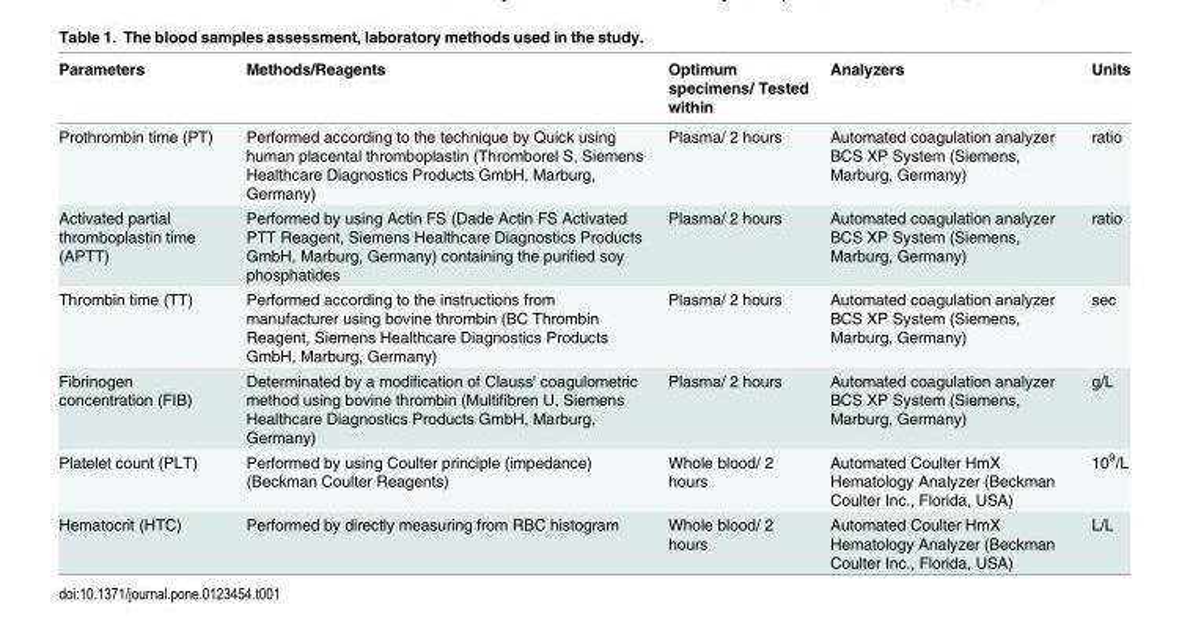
<table><thead><tr><td>Parameters</td><td>Methods/Reagents</td><td>Optimum specimens/ Tested within</td><td>Analyzers</td><td>Units</td></tr></thead><tbody><tr><td>Prothrombin time (PT)</td><td>Performed according to the technique by Quick using human placental thromboplastin (Thromborel S, Siemens Healthcare Diagnostics Products GmbH, Marburg, Germany)</td><td>Plasma/ 2 hours</td><td>Automated coagulation analyzer BCS XP System (Siemens, Marburg, Germany)</td><td>ratio</td></tr><tr><td>Activated partial thromboplastin time (APTT)</td><td>Performed by using Actin FS (Dade Actin FS Activated PTT Reagent, Siemens Healthcare Diagnostics Products GmbH, Marburg, Germany) containing the purified soy phosphatides</td><td>Plasma/ 2 hours</td><td>Automated coagulation analyzer BCS XP System (Siemens, Marburg, Germany)</td><td>ratio</td></tr><tr><td>Thrombin time (TT)</td><td>Performed according to the instructions from manufacturer using bovine thrombin (BC Thrombin Reagent, Siemens Healthcare Diagnostics Products GmbH, Marburg, Germany)</td><td>Plasma/ 2 hours</td><td>Automated coagulation analyzer BCS XP System (Siemens, Marburg, Germany)</td><td>sec</td></tr><tr><td>Fibrinogen concentration (FIB)</td><td>Determinated by a modification of Clauss&#x27; coagulometric method using bovine thrombin (Multifibren U, Siemens Healthcare Diagnostics Products GmbH, Marburg, Germany)</td><td>Plasma/ 2 hours</td><td>Automated coagulation analyzer BCS XP System (Siemens, Marburg, Germany)</td><td>g/L</td></tr><tr><td>Platelet count (PLT)</td><td>Performed by using Coulter principle (impedance) (Beckman Coulter Reagents)</td><td>Whole blood/ 2 hours</td><td>Automated Coulter HmX Hematology Analyzer (Beckman Coulter Inc., Florida, USA)</td><td>10<sup>9</sup>/L</td></tr><tr><td>Hematocrit (HTC)</td><td>Performed by directly measuring from RBC histogram</td><td>Whole blood/ 2 hours</td><td>Automated Coulter HmX Hematology Analyzer (Beckman Coulter Inc., Florida, USA)</td><td>L/L</td></tr></tbody></table>